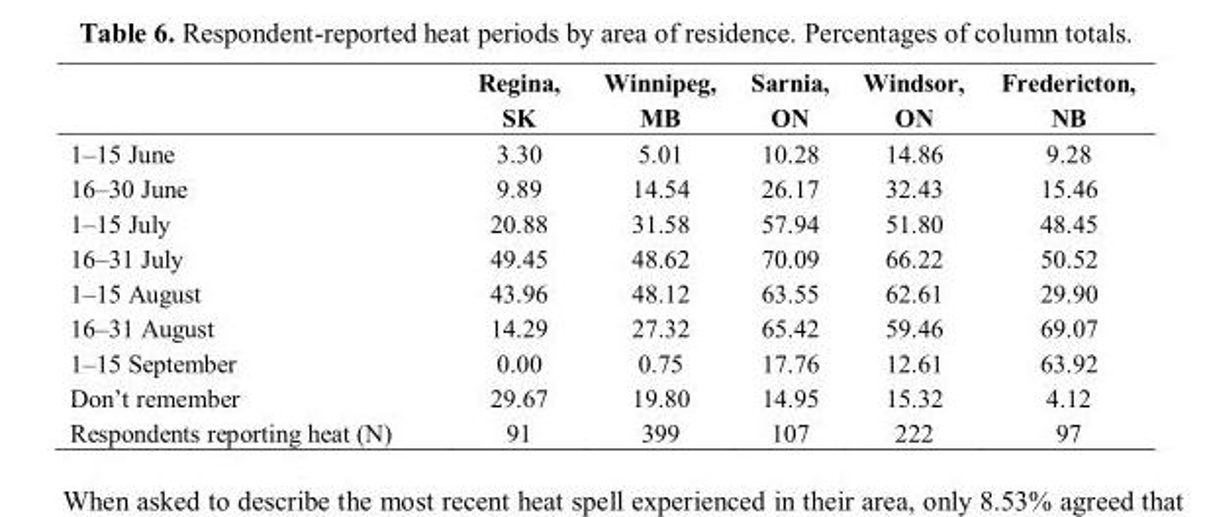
<table><thead><tr><td></td><td>Regina, SK</td><td>Winnipeg, MB</td><td>Sarnia, ON</td><td>Windsor, ON</td><td>Fredericton, NB</td></tr></thead><tbody><tr><td>1–15 June</td><td>3.30</td><td>5.01</td><td>10.28</td><td>14.86</td><td>9.28</td></tr><tr><td>16–30 June</td><td>9.89</td><td>14.54</td><td>26.17</td><td>32.43</td><td>15.46</td></tr><tr><td>1–15 July</td><td>20.88</td><td>31.58</td><td>57.94</td><td>51.80</td><td>48.45</td></tr><tr><td>16–31 July</td><td>49.45</td><td>48.62</td><td>70.09</td><td>66.22</td><td>50.52</td></tr><tr><td>1–15 August</td><td>43.96</td><td>48.12</td><td>63.55</td><td>62.61</td><td>29.90</td></tr><tr><td>16–31 August</td><td>14.29</td><td>27.32</td><td>65.42</td><td>59.46</td><td>69.07</td></tr><tr><td>1–15 September</td><td>0.00</td><td>0.75</td><td>17.76</td><td>12.61</td><td>63.92</td></tr><tr><td>Don’t remember</td><td>29.67</td><td>19.80</td><td>14.95</td><td>15.32</td><td>4.12</td></tr><tr><td>Respondents reporting heat (N)</td><td>91</td><td>399</td><td>107</td><td>222</td><td>97</td></tr></tbody></table>